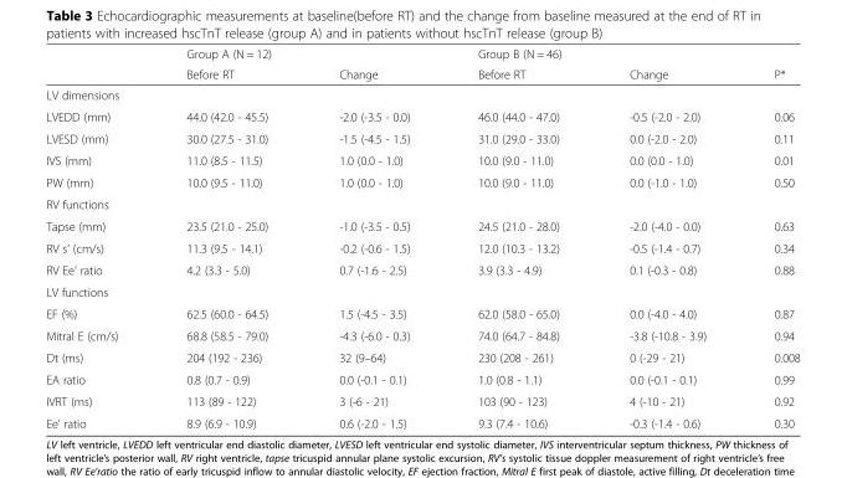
<table><thead><tr><td rowspan="2"></td><td rowspan="2">Group A (N = 12) Before RT</td><td rowspan="2">Change</td><td rowspan="2">Group B (N = 46) Before RT</td><td rowspan="2">Change</td><td rowspan="2">P*</td></tr><tr></tr></thead><tbody><tr><td colspan="6">LV dimensions</td></tr><tr><td>LVEDD (mm)</td><td>44.0 (42.0 - 45.5)</td><td>-2.0 (-3.5 - 0.0)</td><td>46.0 (44.0 - 47.0)</td><td>-0.5 (-2.0 - 2.0)</td><td>0.06</td></tr><tr><td>LVESD (mm)</td><td>30.0 (27.5 - 31.0)</td><td>-1.5 (-4.5 - 1.5)</td><td>31.0 (29.0 - 33.0)</td><td>0.0 (-2.0 - 2.0)</td><td>0.11</td></tr><tr><td>IVS (mm)</td><td>11.0 (8.5 - 11.5)</td><td>1.0 (0.0 - 1.0)</td><td>10.0 (9.0 - 11.0)</td><td>0.0 (0.0 - 1.0)</td><td>0.01</td></tr><tr><td>PW (mm)</td><td>10.0 (9.5 - 11.0)</td><td>1.0 (0.0 - 1.0)</td><td>10.0 (9.0 - 11.0)</td><td>0.0 (-1.0 - 1.0)</td><td>0.50</td></tr><tr><td colspan="6">RV functions</td></tr><tr><td>Tapse (mm)</td><td>23.5 (21.0 - 25.0)</td><td>-1.0 (-3.5 - 0.5)</td><td>24.5 (21.0 - 28.0)</td><td>-2.0 (-4.0 - 0.0)</td><td>0.63</td></tr><tr><td>RV s’ (cm/s)</td><td>11.3 (9.5 - 14.1)</td><td>-0.2 (-0.6 - 1.5)</td><td>12.0 (10.3 - 13.2)</td><td>-0.5 (-1.4 - 0.7)</td><td>0.34</td></tr><tr><td>RV Ee’ ratio</td><td>4.2 (3.3 - 5.0)</td><td>0.7 (-1.6 - 2.5)</td><td>3.9 (3.3 - 4.9)</td><td>0.1 (-0.3 - 0.8)</td><td>0.88</td></tr><tr><td colspan="6">LV functions</td></tr><tr><td>EF (%)</td><td>62.5 (60.0 - 64.5)</td><td>1.5 (-4.5 - 3.5)</td><td>62.0 (58.0 - 65.0)</td><td>0.0 (-4.0 - 4.0)</td><td>0.87</td></tr><tr><td>Mitral E (cm/s)</td><td>68.8 (58.5 - 79.0)</td><td>-4.3 (-6.0 - 0.3)</td><td>74.0 (64.7 - 84.8)</td><td>-3.8 (-10.8 - 3.9)</td><td>0.94</td></tr><tr><td>Dt (ms)</td><td>204 (192 - 236)</td><td>32 (9–64)</td><td>230 (208 - 261)</td><td>0 (-29 - 21)</td><td>0.008</td></tr><tr><td>EA ratio</td><td>0.8 (0.7 - 0.9)</td><td>0.0 (-0.1 - 0.1)</td><td>1.0 (0.8 - 1.1)</td><td>0.0 (-0.1 - 0.1)</td><td>0.99</td></tr><tr><td>IVRT (ms)</td><td>113 (89 - 122)</td><td>3 (-6 - 21)</td><td>103 (90 - 123)</td><td>4 (-10 - 21)</td><td>0.92</td></tr><tr><td>Ee’ ratio</td><td>8.9 (6.9 - 10.9)</td><td>0.6 (-2.0 - 1.5)</td><td>9.3 (7.4 - 10.6)</td><td>-0.3 (-1.4 - 0.6)</td><td>0.30</td></tr></tbody></table>